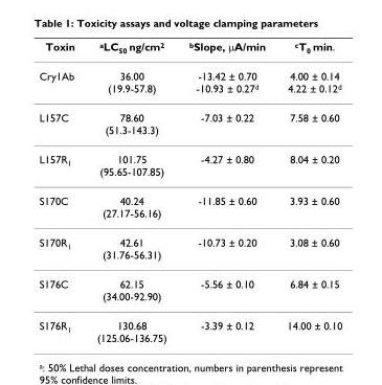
<table><thead><tr><td>Toxin</td><td><sup>a</sup>LC<sub>50</sub> ng/cm<sup>2</sup></td><td><sup>b</sup>Slope, μA/min</td><td><sup>c</sup>T<sub>0</sub> min.</td></tr></thead><tbody><tr><td>Cry1Ab</td><td>36.00 (19.9-57.8)</td><td>-13.42 ± 0.70 -10.93 ± 0.27<sup>d</sup></td><td>4.00 ± 0.14 4.22 ± 0.12<sup>d</sup></td></tr><tr><td>L157C</td><td>78.60 (51.3-143.3)</td><td>-7.03 ± 0.22</td><td>7.58 ± 0.60</td></tr><tr><td>L157R<sub>1</sub></td><td>101.75 (95.65-107.85)</td><td>-4.27 ± 0.80</td><td>8.04 ± 0.20</td></tr><tr><td>S170C</td><td>40.24 (27.17-56.16)</td><td>-11.85 ± 0.60</td><td>3.93 ± 0.60</td></tr><tr><td>S170R<sub>1</sub></td><td>42.61 (31.76-56.31)</td><td>-10.73 ± 0.20</td><td>3.08 ± 0.60</td></tr><tr><td>S176C</td><td>62.15 (34.00-92.90)</td><td>-5.56 ± 0.10</td><td>6.84 ± 0.15</td></tr><tr><td>S176R<sub>1</sub></td><td>130.68 (125.06-136.75)</td><td>-3.39 ± 0.12</td><td>14.00 ± 0.10</td></tr></tbody></table>